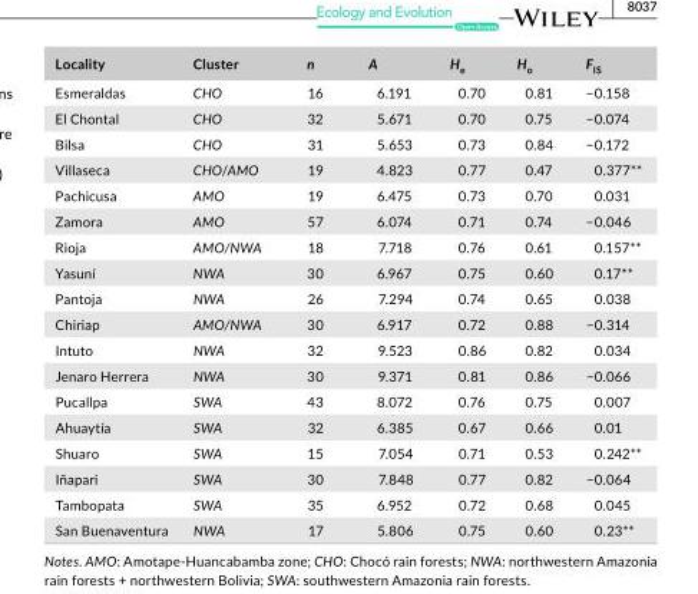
<table><thead><tr><td>Locality</td><td>Cluster</td><td>n</td><td>A</td><td>H<sub>e</sub></td><td>H<sub>o</sub></td><td>F<sub>IS</sub></td></tr></thead><tbody><tr><td>Esmeraldas</td><td>CHO</td><td>16</td><td>6.191</td><td>0.70</td><td>0.81</td><td>−0.158</td></tr><tr><td>El Chontal</td><td>CHO</td><td>32</td><td>5.671</td><td>0.70</td><td>0.75</td><td>−0.074</td></tr><tr><td>Bilsa</td><td>CHO</td><td>31</td><td>5.653</td><td>0.73</td><td>0.84</td><td>−0.172</td></tr><tr><td>Villaseca</td><td>CHO/AMO</td><td>19</td><td>4.823</td><td>0.77</td><td>0.47</td><td>0.377**</td></tr><tr><td>Pachicusa</td><td>AMO</td><td>19</td><td>6.475</td><td>0.73</td><td>0.70</td><td>0.031</td></tr><tr><td>Zamora</td><td>AMO</td><td>57</td><td>6.074</td><td>0.71</td><td>0.74</td><td>−0.046</td></tr><tr><td>Rioja</td><td>AMO/NWA</td><td>18</td><td>7.718</td><td>0.76</td><td>0.61</td><td>0.157**</td></tr><tr><td>Yasuní</td><td>NWA</td><td>30</td><td>6.967</td><td>0.75</td><td>0.60</td><td>0.17**</td></tr><tr><td>Pantoja</td><td>NWA</td><td>26</td><td>7.294</td><td>0.74</td><td>0.65</td><td>0.038</td></tr><tr><td>Chiriap</td><td>AMO/NWA</td><td>30</td><td>6.917</td><td>0.72</td><td>0.88</td><td>−0.314</td></tr><tr><td>Intuto</td><td>NWA</td><td>32</td><td>9.523</td><td>0.86</td><td>0.82</td><td>0.034</td></tr><tr><td>Jenaro Herrera</td><td>NWA</td><td>30</td><td>9.371</td><td>0.81</td><td>0.86</td><td>−0.066</td></tr><tr><td>Pucallpa</td><td>SWA</td><td>43</td><td>8.072</td><td>0.76</td><td>0.75</td><td>0.007</td></tr><tr><td>Ahuaytía</td><td>SWA</td><td>32</td><td>6.385</td><td>0.67</td><td>0.66</td><td>0.01</td></tr><tr><td>Shuaro</td><td>SWA</td><td>15</td><td>7.054</td><td>0.71</td><td>0.53</td><td>0.242**</td></tr><tr><td>Iñapari</td><td>SWA</td><td>30</td><td>7.848</td><td>0.77</td><td>0.82</td><td>−0.064</td></tr><tr><td>Tambopata</td><td>SWA</td><td>35</td><td>6.952</td><td>0.72</td><td>0.68</td><td>0.045</td></tr><tr><td>San Buenaventura</td><td>NWA</td><td>17</td><td>5.806</td><td>0.75</td><td>0.60</td><td>0.23**</td></tr></tbody></table>